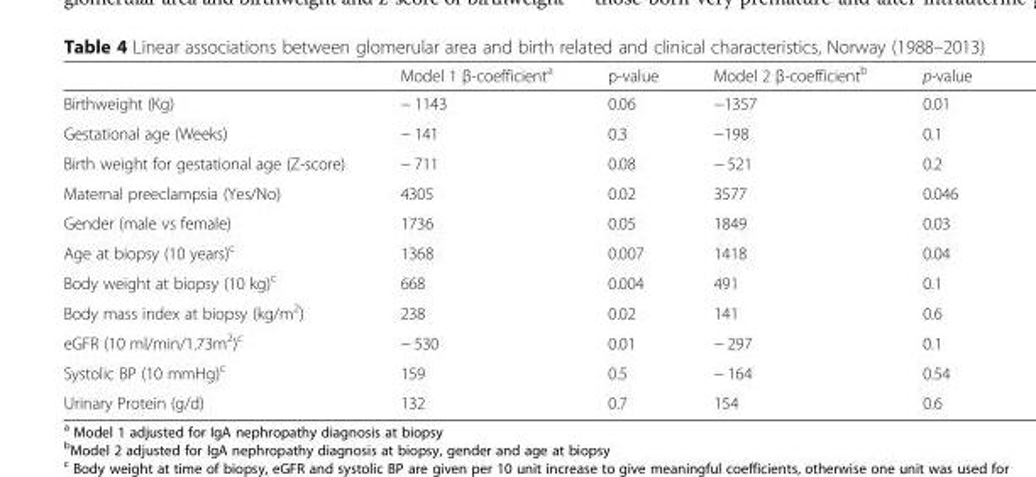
<table><thead><tr><td></td><td>Model 1 β-coefficient<sup>a</sup></td><td>p-value</td><td>Model 2 β-coefficient<sup>b</sup></td><td>p-value</td></tr></thead><tbody><tr><td>Birthweight (Kg)</td><td>− 1143</td><td>0.06</td><td>−1357</td><td>0.01</td></tr><tr><td>Gestational age (Weeks)</td><td>− 141</td><td>0.3</td><td>−198</td><td>0.1</td></tr><tr><td>Birth weight for gestational age (Z-score)</td><td>− 711</td><td>0.08</td><td>− 521</td><td>0.2</td></tr><tr><td>Maternal preeclampsia (Yes/No)</td><td>4305</td><td>0.02</td><td>3577</td><td>0.046</td></tr><tr><td>Gender (male vs female)</td><td>1736</td><td>0.05</td><td>1849</td><td>0.03</td></tr><tr><td>Age at biopsy (10 years)<sup>c</sup></td><td>1368</td><td>0.007</td><td>1418</td><td>0.04</td></tr><tr><td>Body weight at biopsy (10 kg)<sup>c</sup></td><td>668</td><td>0.004</td><td>491</td><td>0.1</td></tr><tr><td>Body mass index at biopsy (kg/m<sup>2</sup>)</td><td>238</td><td>0.02</td><td>141</td><td>0.6</td></tr><tr><td>eGFR (10 ml/min/1.73m<sup>2</sup>)<sup>c</sup></td><td>− 530</td><td>0.01</td><td>− 297</td><td>0.1</td></tr><tr><td>Systolic BP (10 mmHg)<sup>c</sup></td><td>159</td><td>0.5</td><td>− 164</td><td>0.54</td></tr><tr><td>Urinary Protein (g/d)</td><td>132</td><td>0.7</td><td>154</td><td>0.6</td></tr></tbody></table>